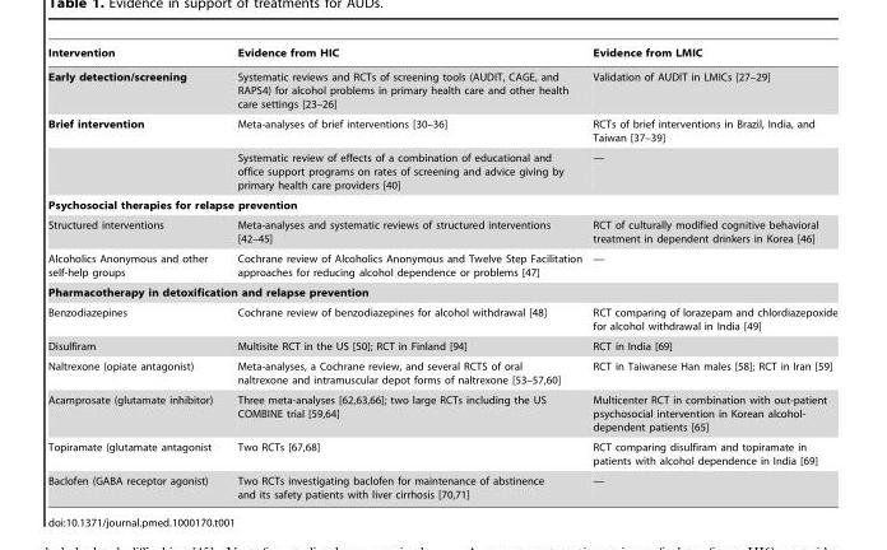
<table><thead><tr><td>Intervention</td><td>Evidence from HIC</td><td>Evidence from LMIC</td></tr></thead><tbody><tr><td>Early detection/screening</td><td>Systematic reviews and RCTs of screening tools (AUDIT, CAGE, and RAPS4) for alcohol problems in primary health care and other health care settings [23–26]</td><td>Validation of AUDIT in LMICs [27–29]</td></tr><tr><td rowspan="2">Brief intervention</td><td>Meta-analyses of brief interventions [30–36]</td><td>RCTs of brief interventions in Brazil, India, and Taiwan [37–39]</td></tr><tr><td>Systematic review of effects of a combination of educational and office support programs on rates of screening and advice giving by primary health care providers [40]</td><td>—</td></tr><tr><td colspan="3">Psychosocial therapies for relapse prevention</td></tr><tr><td>Structured interventions</td><td>Meta-analyses and systematic reviews of structured interventions [42–45]</td><td>RCT of culturally modified cognitive behavioral treatment in dependent drinkers in Korea [46]</td></tr><tr><td>Alcoholics Anonymous and other self-help groups</td><td>Cochrane review of Alcoholics Anonymous and Twelve Step Facilitation approaches for reducing alcohol dependence or problems [47]</td><td>—</td></tr><tr><td colspan="3">Pharmacotherapy in detoxification and relapse prevention</td></tr><tr><td>Benzodiazepines</td><td>Cochrane review of benzodiazepines for alcohol withdrawal [48]</td><td>RCT comparing of lorazepam and chlordiazepoxide for alcohol withdrawal in India [49]</td></tr><tr><td>Disulfiram</td><td>Multisite RCT in the US [50]; RCT in Finland [94]</td><td>RCT in India [69]</td></tr><tr><td>Naltrexone (opiate antagonist)</td><td>Meta-analyses, a Cochrane review, and several RCTS of oral naltrexone and intramuscular depot forms of naltrexone [53–57,60]</td><td>RCT in Taiwanese Han males [58]; RCT in Iran [59]</td></tr><tr><td>Acamprosate (glutamate inhibitor)</td><td>Three meta-analyses [62,63,66]; two large RCTs including the US COMBINE trial [59,64]</td><td>Multicenter RCT in combination with out-patient psychosocial intervention in Korean alcohol- dependent patients [65]</td></tr><tr><td>Topiramate (glutamate antagonist</td><td>Two RCTs [67,68]</td><td>RCT comparing disulfiram and topiramate in patients with alcohol dependence in India [69]</td></tr><tr><td>Baclofen (GABA receptor agonist)</td><td>Two RCTs investigating baclofen for maintenance of abstinence and its safety patients with liver cirrhosis [70,71]</td><td>—</td></tr></tbody></table>